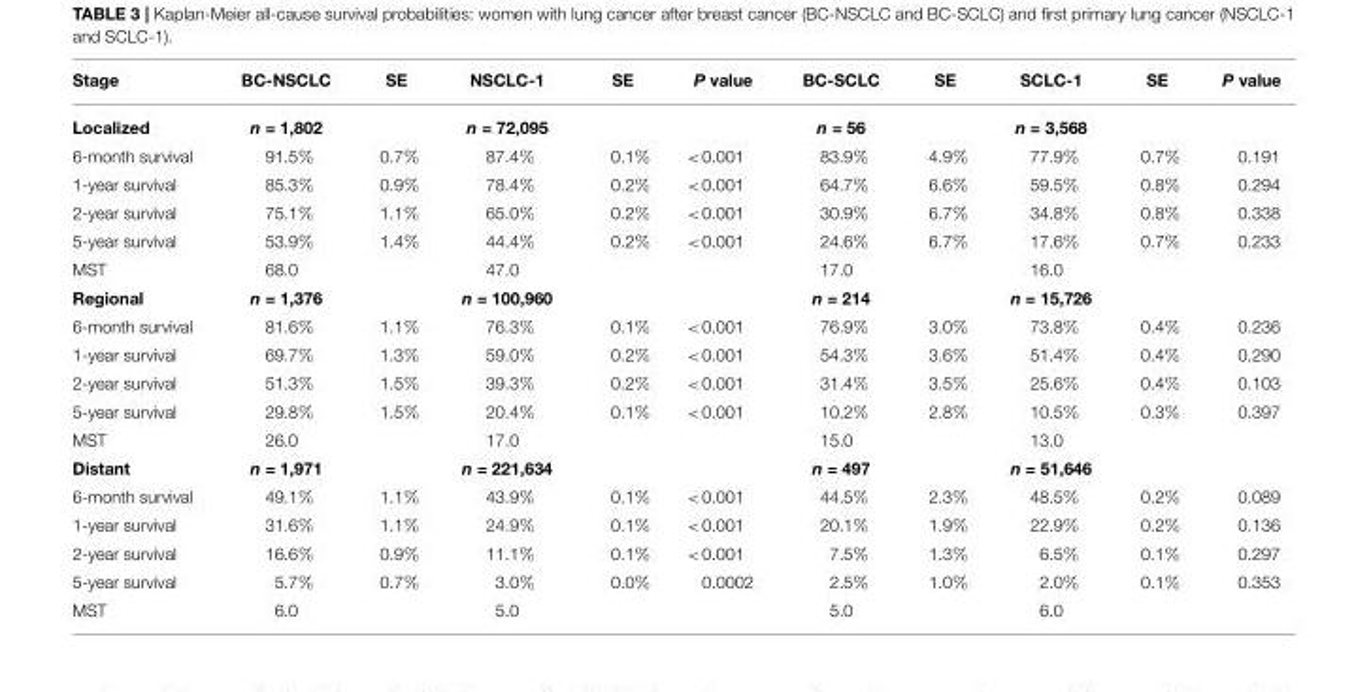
<table><thead><tr><td>Stage</td><td>BC-NSCLC</td><td>SE</td><td>NSCLC-1</td><td>SE</td><td>P value</td><td>BC-SCLC</td><td>SE</td><td>SCLC-1</td><td>SE</td><td>P value</td></tr></thead><tbody><tr><td>Localized</td><td>n = 1,802</td><td></td><td>n = 72,095</td><td></td><td></td><td>n = 56</td><td></td><td>n = 3,568</td><td></td><td></td></tr><tr><td>6-month survival</td><td>91.5%</td><td>0.7%</td><td>87.4%</td><td>0.1%</td><td>&lt;0.001</td><td>83.9%</td><td>4.9%</td><td>77.9%</td><td>0.7%</td><td>0.191</td></tr><tr><td>1-year survival</td><td>85.3%</td><td>0.9%</td><td>78.4%</td><td>0.2%</td><td>&lt;0.001</td><td>64.7%</td><td>6.6%</td><td>59.5%</td><td>0.8%</td><td>0.294</td></tr><tr><td>2-year survival</td><td>75.1%</td><td>1.1%</td><td>65.0%</td><td>0.2%</td><td>&lt;0.001</td><td>30.9%</td><td>6.7%</td><td>34.8%</td><td>0.8%</td><td>0.338</td></tr><tr><td>5-year survival</td><td>53.9%</td><td>1.4%</td><td>44.4%</td><td>0.2%</td><td>&lt;0.001</td><td>24.6%</td><td>6.7%</td><td>17.6%</td><td>0.7%</td><td>0.233</td></tr><tr><td>MST</td><td>68.0</td><td></td><td>47.0</td><td></td><td></td><td>17.0</td><td></td><td>16.0</td><td></td><td></td></tr><tr><td>Regional</td><td>n = 1,376</td><td></td><td>n = 100,960</td><td></td><td></td><td>n = 214</td><td></td><td>n = 15,726</td><td></td><td></td></tr><tr><td>6-month survival</td><td>81.6%</td><td>1.1%</td><td>76.3%</td><td>0.1%</td><td>&lt;0.001</td><td>76.9%</td><td>3.0%</td><td>73.8%</td><td>0.4%</td><td>0.236</td></tr><tr><td>1-year survival</td><td>69.7%</td><td>1.3%</td><td>59.0%</td><td>0.2%</td><td>&lt;0.001</td><td>54.3%</td><td>3.6%</td><td>51.4%</td><td>0.4%</td><td>0.290</td></tr><tr><td>2-year survival</td><td>51.3%</td><td>1.5%</td><td>39.3%</td><td>0.2%</td><td>&lt;0.001</td><td>31.4%</td><td>3.5%</td><td>25.6%</td><td>0.4%</td><td>0.103</td></tr><tr><td>5-year survival</td><td>29.8%</td><td>1.5%</td><td>20.4%</td><td>0.1%</td><td>&lt;0.001</td><td>10.2%</td><td>2.8%</td><td>10.5%</td><td>0.3%</td><td>0.397</td></tr><tr><td>MST</td><td>26.0</td><td></td><td>17.0</td><td></td><td></td><td>15.0</td><td></td><td>13.0</td><td></td><td></td></tr><tr><td>Distant</td><td>n = 1,971</td><td></td><td>n = 221,634</td><td></td><td></td><td>n = 497</td><td></td><td>n = 51,646</td><td></td><td></td></tr><tr><td>6-month survival</td><td>49.1%</td><td>1.1%</td><td>43.9%</td><td>0.1%</td><td>&lt;0.001</td><td>44.5%</td><td>2.3%</td><td>48.5%</td><td>0.2%</td><td>0.089</td></tr><tr><td>1-year survival</td><td>31.6%</td><td>1.1%</td><td>24.9%</td><td>0.1%</td><td>&lt;0.001</td><td>20.1%</td><td>1.9%</td><td>22.9%</td><td>0.2%</td><td>0.136</td></tr><tr><td>2-year survival</td><td>16.6%</td><td>0.9%</td><td>11.1%</td><td>0.1%</td><td>&lt;0.001</td><td>7.5%</td><td>1.3%</td><td>6.5%</td><td>0.1%</td><td>0.297</td></tr><tr><td>5-year survival</td><td>5.7%</td><td>0.7%</td><td>3.0%</td><td>0.0%</td><td>0.0002</td><td>2.5%</td><td>1.0%</td><td>2.0%</td><td>0.1%</td><td>0.353</td></tr><tr><td>MST</td><td>6.0</td><td></td><td>5.0</td><td></td><td></td><td>5.0</td><td></td><td>6.0</td><td></td><td></td></tr></tbody></table>